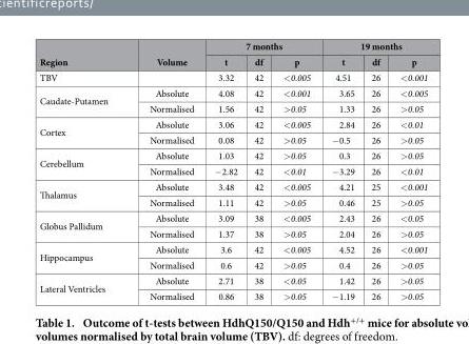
<table><thead><tr><td rowspan="2">Region</td><td rowspan="2">Volume</td><td colspan="3">7 months</td><td colspan="3">19 months</td></tr><tr><td>t</td><td>df</td><td>p</td><td>t</td><td>df</td><td>p</td></tr></thead><tbody><tr><td>TBV</td><td></td><td>3.32</td><td>42</td><td>&lt;0.005</td><td>4.51</td><td>26</td><td>&lt;0.001</td></tr><tr><td rowspan="2">Caudate-Putamen</td><td>Absolute</td><td>4.08</td><td>42</td><td>&lt;0.001</td><td>3.65</td><td>26</td><td>&lt;0.005</td></tr><tr><td>Normalised</td><td>1.56</td><td>42</td><td>&gt;0.05</td><td>1.33</td><td>26</td><td>&gt;0.05</td></tr><tr><td rowspan="2">Cortex</td><td>Absolute</td><td>3.06</td><td>42</td><td>&lt;0.005</td><td>2.84</td><td>26</td><td>&lt;0.01</td></tr><tr><td>Normalised</td><td>0.08</td><td>42</td><td>&gt;0.05</td><td>− 0.5</td><td>26</td><td>&gt;0.05</td></tr><tr><td rowspan="2">Cerebellum</td><td>Absolute</td><td>1.03</td><td>42</td><td>&gt;0.05</td><td>0.3</td><td>26</td><td>&gt;0.05</td></tr><tr><td>Normalised</td><td>− 2.82</td><td>42</td><td>&lt;0.01</td><td>− 3.29</td><td>26</td><td>&lt;0.01</td></tr><tr><td rowspan="2">Thalamus</td><td>Absolute</td><td>3.48</td><td>42</td><td>&lt;0.005</td><td>4.21</td><td>25</td><td>&lt;0.001</td></tr><tr><td>Normalised</td><td>1.11</td><td>42</td><td>&gt;0.05</td><td>0.46</td><td>25</td><td>&gt;0.05</td></tr><tr><td rowspan="2">Globus Pallidum</td><td>Absolute</td><td>3.09</td><td>38</td><td>&lt;0.005</td><td>2.43</td><td>26</td><td>&lt;0.05</td></tr><tr><td>Normalised</td><td>1.37</td><td>38</td><td>&gt;0.05</td><td>2.04</td><td>26</td><td>&gt;0.05</td></tr><tr><td rowspan="2">Hippocampus</td><td>Absolute</td><td>3.6</td><td>42</td><td>&lt;0.005</td><td>4.52</td><td>26</td><td>&lt;0.001</td></tr><tr><td>Normalised</td><td>0.6</td><td>42</td><td>&gt;0.05</td><td>0.4</td><td>26</td><td>&gt;0.05</td></tr><tr><td rowspan="2">Lateral Ventricles</td><td>Absolute</td><td>2.71</td><td>38</td><td>&lt;0.05</td><td>1.42</td><td>26</td><td>&gt;0.05</td></tr><tr><td>Normalised</td><td>0.86</td><td>38</td><td>&gt;0.05</td><td>− 1.19</td><td>26</td><td>&gt;0.05</td></tr></tbody></table>